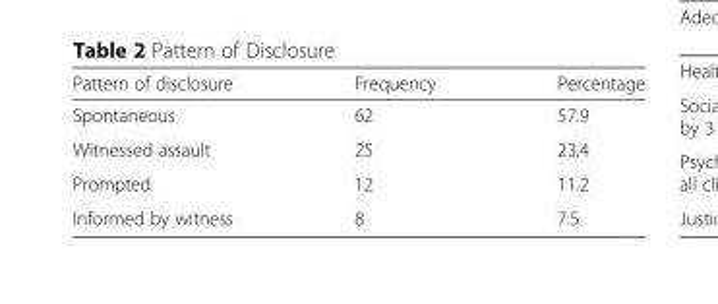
<table><thead><tr><td>Pattern of disclosure</td><td>Frequency</td><td>Percentage</td></tr></thead><tbody><tr><td>Spontaneous</td><td>62</td><td>57.9</td></tr><tr><td>Witnessed assault</td><td>25</td><td>23.4</td></tr><tr><td>Prompted</td><td>12</td><td>11.2</td></tr><tr><td>Informed by witness</td><td>8</td><td>7.5</td></tr></tbody></table>